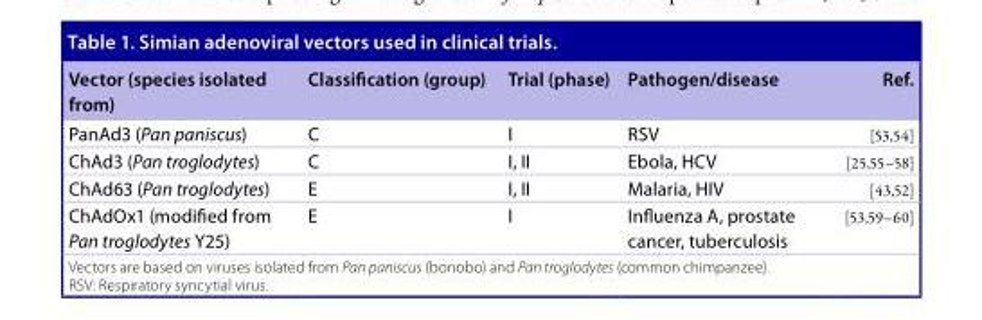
<table><thead><tr><td>Vector (species isolated from)</td><td>Classification (group)</td><td>Trial (phase)</td><td>Pathogen/disease</td><td>Ref.</td></tr></thead><tbody><tr><td>PanAd3 (Pan paniscus)</td><td>C</td><td>I</td><td>RSV</td><td>[53,54]</td></tr><tr><td>ChAd3 (Pan troglodytes)</td><td>C</td><td>I, II</td><td>Ebola, HCV</td><td>[25,55–58]</td></tr><tr><td>ChAd63 (Pan troglodytes)</td><td>E</td><td>I, II</td><td>Malaria, HIV</td><td>[43,52]</td></tr><tr><td>ChAdOx1 (modified from Pan troglodytes Y25)</td><td>E</td><td>I</td><td>Influenza A, prostate cancer, tuberculosis</td><td>[53,59–60]</td></tr></tbody></table>